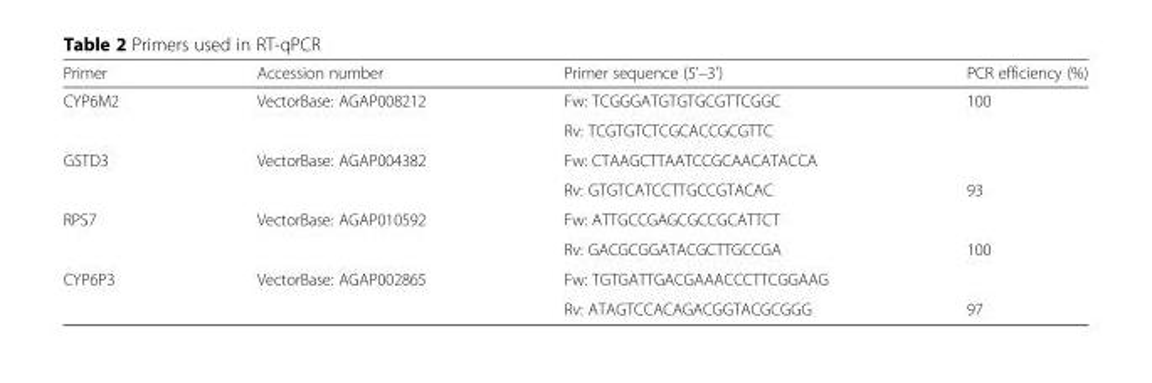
<table><thead><tr><td>Primer</td><td>Accession number</td><td>Primer sequence (5&#x27;–3&#x27;)</td><td>PCR efficiency (%)</td></tr></thead><tbody><tr><td rowspan="2">CYP6M2</td><td rowspan="2">VectorBase: AGAP008212</td><td>Fw: TCGGGATGTGTGCGTTCGGC</td><td>100</td></tr><tr><td>Rv: TCGTGTCTCGCACCGCGTTC</td><td></td></tr><tr><td rowspan="2">GSTD3</td><td rowspan="2">VectorBase: AGAP004382</td><td>Fw: CTAAGCTTAATCCGCAACATACCA</td><td></td></tr><tr><td>Rv: GTGTCATCCTTGCCGTACAC</td><td>93</td></tr><tr><td rowspan="2">RPS7</td><td rowspan="2">VectorBase: AGAP010592</td><td>Fw: ATTGCCGAGCGCCGCATTCT</td><td></td></tr><tr><td>Rv: GACGCGGATACGCTTGCCGA</td><td>100</td></tr><tr><td rowspan="2">CYP6P3</td><td rowspan="2">VectorBase: AGAP002865</td><td>Fw: TGTGATTGACGAAACCCTTCGGAAG</td><td></td></tr><tr><td>Rv: ATAGTCCACAGACGGTACGCGGG</td><td>97</td></tr></tbody></table>